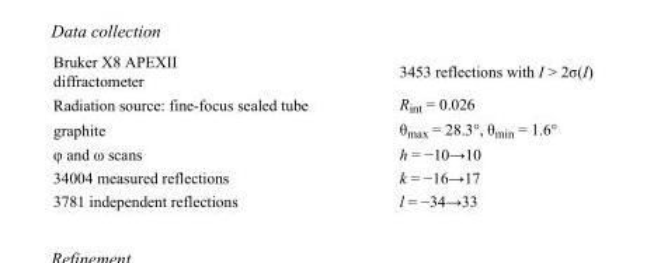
<table><tbody><tr><td>Bruker X8 APEXII diffractometer</td><td>3453 reflections with I &gt; 2σ(I)</td></tr><tr><td>Radiation source: fine-focus sealed tube</td><td>R<sub>int</sub> = 0.026</td></tr><tr><td>graphite</td><td>θ<sub>max</sub> = 28.3°, θ<sub>min</sub> = 1.6°</td></tr><tr><td>φ and ω scans</td><td>h = −10→10</td></tr><tr><td>34004 measured reflections</td><td>k = −16→17</td></tr><tr><td>3781 independent reflections</td><td>l = −34→33</td></tr></tbody></table>